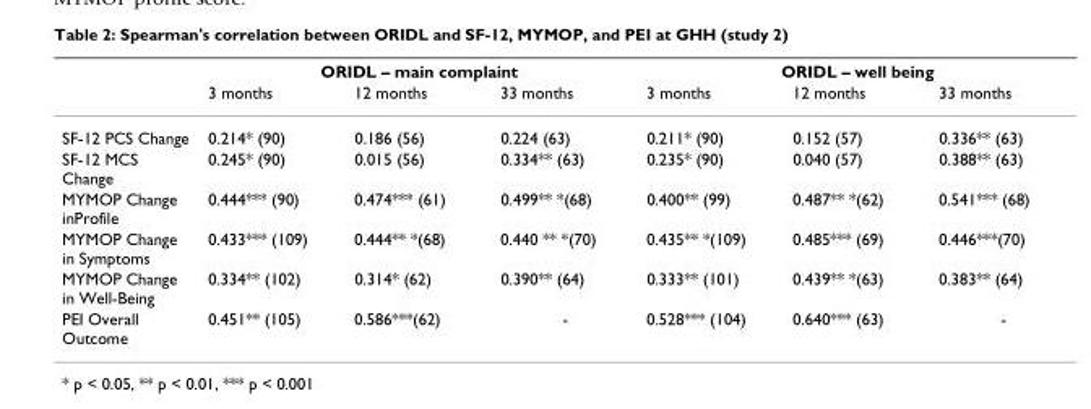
<table><thead><tr><td rowspan="2"></td><td colspan="3">ORIDL – main complaint</td><td colspan="3">ORIDL – well being</td></tr><tr><td>3 months</td><td>12 months</td><td>33 months</td><td>3 months</td><td>12 months</td><td>33 months</td></tr></thead><tbody><tr><td>SF-12 PCS Change</td><td>0.214* (90)</td><td>0.186 (56)</td><td>0.224 (63)</td><td>0.211* (90)</td><td>0.152 (57)</td><td>0.336** (63)</td></tr><tr><td>SF-12 MCS Change</td><td>0.245* (90)</td><td>0.015 (56)</td><td>0.334** (63)</td><td>0.235* (90)</td><td>0.040 (57)</td><td>0.388** (63)</td></tr><tr><td>MYMOP Change inProfile</td><td>0.444*** (90)</td><td>0.474*** (61)</td><td>0.499** *(68)</td><td>0.400** (99)</td><td>0.487** *(62)</td><td>0.541*** (68)</td></tr><tr><td>MYMOP Change in Symptoms</td><td>0.433*** (109)</td><td>0.444** *(68)</td><td>0.440 ** *(70)</td><td>0.435** *(109)</td><td>0.485*** (69)</td><td>0.446***(70)</td></tr><tr><td>MYMOP Change in Well-Being</td><td>0.334** (102)</td><td>0.314* (62)</td><td>0.390** (64)</td><td>0.333** (101)</td><td>0.439** *(63)</td><td>0.383** (64)</td></tr><tr><td>PEI Overall Outcome</td><td>0.451** (105)</td><td>0.586***(62)</td><td>-</td><td>0.528*** (104)</td><td>0.640*** (63)</td><td>-</td></tr></tbody></table>